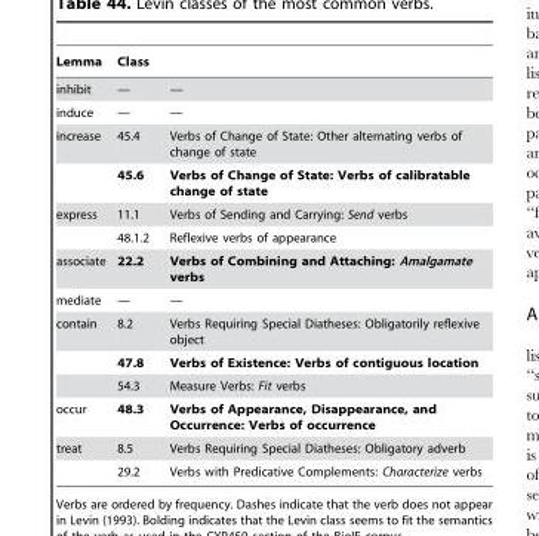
<table><thead><tr><td rowspan="2">Lemma inhibit</td><td colspan="2">Class</td></tr><tr><td>—</td><td>—</td></tr></thead><tbody><tr><td>induce</td><td>—</td><td>—</td></tr><tr><td rowspan="2">increase</td><td>45.4</td><td>Verbs of Change of State: Other alternating verbs of change of state</td></tr><tr><td>45.6</td><td>Verbs of Change of State: Verbs of calibratable change of state</td></tr><tr><td rowspan="2">express</td><td>11.1</td><td>Verbs of Sending and Carrying: Send verbs</td></tr><tr><td>48.1.2</td><td>Reflexive verbs of appearance</td></tr><tr><td>associate</td><td>22.2</td><td>Verbs of Combining and Attaching: Amalgamate verbs</td></tr><tr><td>mediate</td><td>—</td><td>—</td></tr><tr><td rowspan="3">contain</td><td>8.2</td><td>Verbs Requiring Special Diatheses: Obligatorily reflexive object</td></tr><tr><td>47.8</td><td>Verbs of Existence: Verbs of contiguous location</td></tr><tr><td>54.3</td><td>Measure Verbs: Fit verbs</td></tr><tr><td>occur</td><td>48.3</td><td>Verbs of Appearance, Disappearance, and Occurrence: Verbs of occurrence</td></tr><tr><td rowspan="2">treat</td><td>8.5</td><td>Verbs Requiring Special Diatheses: Obligatory adverb</td></tr><tr><td>29.2</td><td>Verbs with Predicative Complements: Characterize verbs</td></tr></tbody></table>